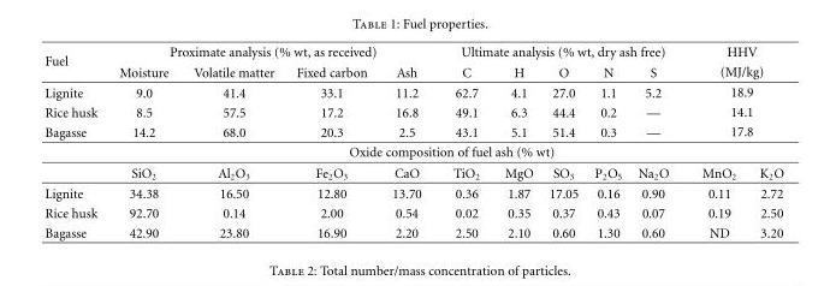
<table><thead><tr><td rowspan="2">Fuel</td><td colspan="4">Proximate analysis (% wt, as received)</td><td colspan="5">Ultimate analysis (% wt, dry ash free)</td><td rowspan="2" colspan="2">HHV (MJ/kg)</td></tr><tr><td>Moisture</td><td>Volatile matter</td><td>Fixed carbon</td><td>Ash</td><td>C</td><td>H</td><td>O</td><td>N</td><td>S</td></tr></thead><tbody><tr><td>Lignite</td><td>9.0</td><td>41.4</td><td>33.1</td><td>11.2</td><td>62.7</td><td>4.1</td><td>27.0</td><td>1.1</td><td>5.2</td><td colspan="2">18.9</td></tr><tr><td>Rice husk</td><td>8.5</td><td>57.5</td><td>17.2</td><td>16.8</td><td>49.1</td><td>6.3</td><td>44.4</td><td>0.2</td><td>—</td><td colspan="2">14.1</td></tr><tr><td rowspan="3">Bagasse</td><td>14.2</td><td>68.0</td><td>20.3</td><td>2.5</td><td>43.1</td><td>5.1</td><td>51.4</td><td>0.3</td><td>—</td><td colspan="2">17.8</td></tr><tr><td colspan="11">Oxide composition of fuel ash (% wt)</td></tr><tr><td>SiO<sub>2</sub></td><td>Al<sub>2</sub>O<sub>3</sub></td><td>Fe<sub>2</sub>O<sub>3</sub></td><td>CaO</td><td>TiO<sub>2</sub></td><td>MgO</td><td>SO<sub>3</sub></td><td>P<sub>2</sub>O<sub>5</sub></td><td>Na<sub>2</sub>O</td><td>MnO<sub>2</sub></td><td>K<sub>2</sub>O</td></tr><tr><td>Lignite</td><td>34.38</td><td>16.50</td><td>12.80</td><td>13.70</td><td>0.36</td><td>1.87</td><td>17.05</td><td>0.16</td><td>0.90</td><td>0.11</td><td>2.72</td></tr><tr><td>Rice husk</td><td>92.70</td><td>0.14</td><td>2.00</td><td>0.54</td><td>0.02</td><td>0.35</td><td>0.37</td><td>0.43</td><td>0.07</td><td>0.19</td><td>2.50</td></tr><tr><td>Bagasse</td><td>42.90</td><td>23.80</td><td>16.90</td><td>2.20</td><td>2.50</td><td>2.10</td><td>0.60</td><td>1.30</td><td>0.60</td><td>ND</td><td>3.20</td></tr></tbody></table>